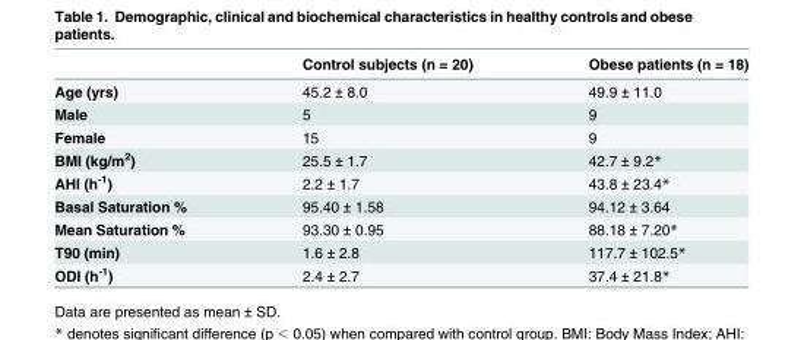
<table><thead><tr><td></td><td>Control subjects (n = 20)</td><td>Obese patients (n = 18)</td></tr></thead><tbody><tr><td>Age (yrs)</td><td>45.2 ± 8.0</td><td>49.9 ± 11.0</td></tr><tr><td>Male</td><td>5</td><td>9</td></tr><tr><td>Female</td><td>15</td><td>9</td></tr><tr><td>BMI (kg/m<sup>2</sup>)</td><td>25.5 ± 1.7</td><td>42.7 ± 9.2*</td></tr><tr><td>AHI (h<sup>-1</sup>)</td><td>2.2 ± 1.7</td><td>43.8 ± 23.4*</td></tr><tr><td>Basal Saturation %</td><td>95.40 ± 1.58</td><td>94.12 ± 3.64</td></tr><tr><td>Mean Saturation %</td><td>93.30 ± 0.95</td><td>88.18 ± 7.20*</td></tr><tr><td>T90 (min)</td><td>1.6 ± 2.8</td><td>117.7 ± 102.5*</td></tr><tr><td>ODI (h<sup>-1</sup>)</td><td>2.4 ± 2.7</td><td>37.4 ± 21.8*</td></tr></tbody></table>